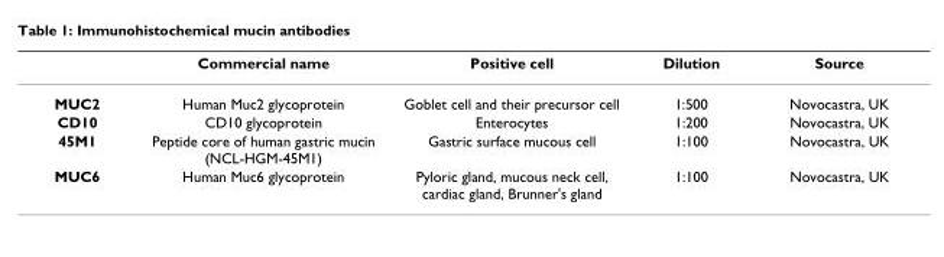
<table><thead><tr><td></td><td>Commercial name</td><td>Positive cell</td><td>Dilution</td><td>Source</td></tr></thead><tbody><tr><td>MUC2</td><td>Human Muc2 glycoprotein</td><td>Goblet cell and their precursor cell</td><td>1:500</td><td>Novocastra, UK</td></tr><tr><td>CD10</td><td>CD10 glycoprotein</td><td>Enterocytes</td><td>1:200</td><td>Novocastra, UK</td></tr><tr><td>45M1</td><td>Peptide core of human gastric mucin (NCL-HGM-45M1)</td><td>Gastric surface mucous cell</td><td>1:100</td><td>Novocastra, UK</td></tr><tr><td>MUC6</td><td>Human Muc6 glycoprotein</td><td>Pyloric gland, mucous neck cell, cardiac gland, Brunner&#x27;s gland</td><td>1:100</td><td>Novocastra, UK</td></tr></tbody></table>